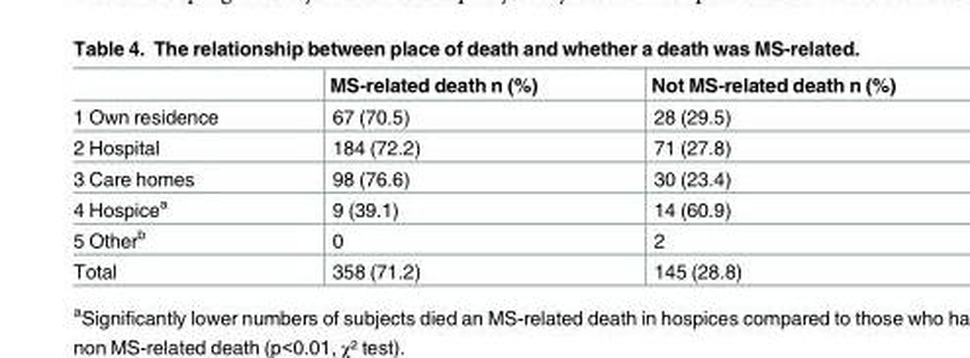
<table><thead><tr><td></td><td>MS-related death n (%)</td><td>Not MS-related death n (%)</td></tr></thead><tbody><tr><td>1 Own residence</td><td>67 (70.5)</td><td>28 (29.5)</td></tr><tr><td>2 Hospital</td><td>184 (72.2)</td><td>71 (27.8)</td></tr><tr><td>3 Care homes</td><td>98 (76.6)</td><td>30 (23.4)</td></tr><tr><td>4 Hospice<sup>a</sup></td><td>9 (39.1)</td><td>14 (60.9)</td></tr><tr><td>5 Other<sup>b</sup></td><td>0</td><td>2</td></tr><tr><td>Total</td><td>358 (71.2)</td><td>145 (28.8)</td></tr></tbody></table>